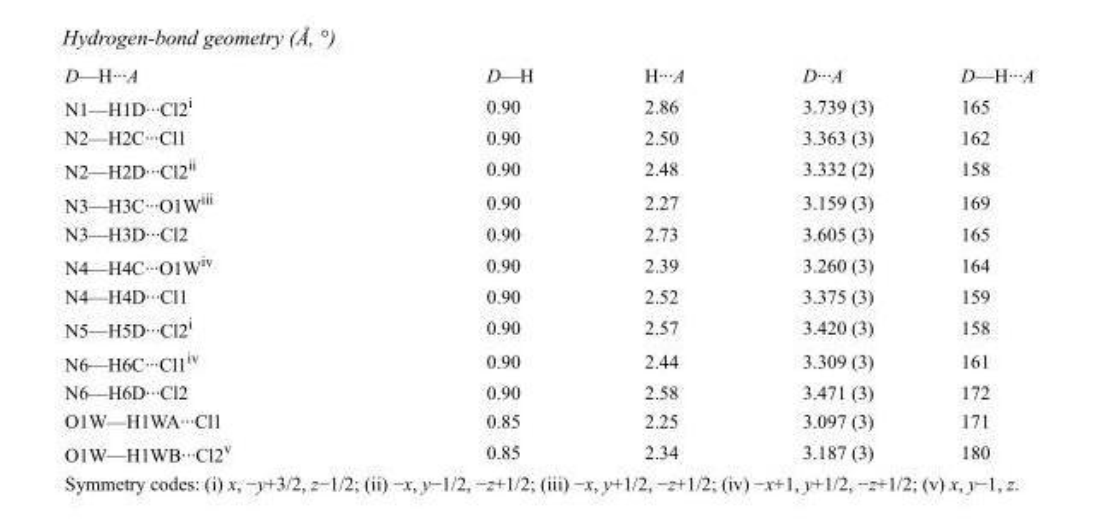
<table><tbody><tr><td>D—H···A</td><td>D—H</td><td>H···A</td><td>D···A</td><td>D—H···A</td></tr><tr><td>N1—H1D···Cl2<sup>i</sup></td><td>0.90</td><td>2.86</td><td>3.739 (3)</td><td>165</td></tr><tr><td>N2—H2C···Cl1</td><td>0.90</td><td>2.50</td><td>3.363 (3)</td><td>162</td></tr><tr><td>N2—H2D···Cl2<sup>ii</sup></td><td>0.90</td><td>2.48</td><td>3.332 (2)</td><td>158</td></tr><tr><td>N3—H3C···O1W<sup>iii</sup></td><td>0.90</td><td>2.27</td><td>3.159 (3)</td><td>169</td></tr><tr><td>N3—H3D···Cl2</td><td>0.90</td><td>2.73</td><td>3.605 (3)</td><td>165</td></tr><tr><td>N4—H4C···O1W<sup>iv</sup></td><td>0.90</td><td>2.39</td><td>3.260 (3)</td><td>164</td></tr><tr><td>N4—H4D···Cl1</td><td>0.90</td><td>2.52</td><td>3.375 (3)</td><td>159</td></tr><tr><td>N5—H5D···Cl2<sup>i</sup></td><td>0.90</td><td>2.57</td><td>3.420 (3)</td><td>158</td></tr><tr><td>N6—H6C···Cl1<sup>iv</sup></td><td>0.90</td><td>2.44</td><td>3.309 (3)</td><td>161</td></tr><tr><td>N6—H6D···Cl2</td><td>0.90</td><td>2.58</td><td>3.471 (3)</td><td>172</td></tr><tr><td>O1W—H1WA···Cl1</td><td>0.85</td><td>2.25</td><td>3.097 (3)</td><td>171</td></tr><tr><td>O1W—H1WB···Cl2<sup>v</sup></td><td>0.85</td><td>2.34</td><td>3.187 (3)</td><td>180</td></tr></tbody></table>